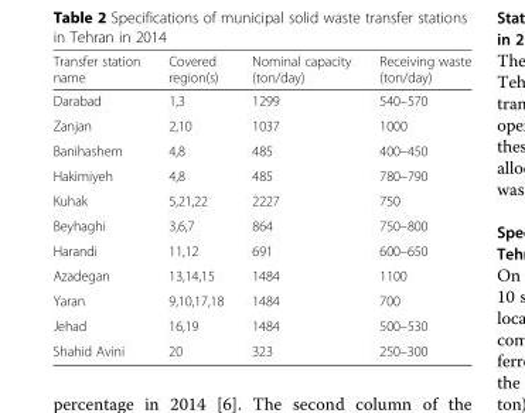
<table><thead><tr><td>Transfer station name</td><td>Covered region(s)</td><td>Nominal capacity (ton/day)</td><td>Receiving waste (ton/day)</td></tr></thead><tbody><tr><td>Darabad</td><td>1,3</td><td>1299</td><td>540–570</td></tr><tr><td>Zanjan</td><td>2,10</td><td>1037</td><td>1000</td></tr><tr><td>Banihashem</td><td>4,8</td><td>485</td><td>400–450</td></tr><tr><td>Hakimiyeh</td><td>4,8</td><td>485</td><td>780–790</td></tr><tr><td>Kuhak</td><td>5,21,22</td><td>2227</td><td>750</td></tr><tr><td>Beyhaghi</td><td>3,6,7</td><td>864</td><td>750–800</td></tr><tr><td>Harandi</td><td>11,12</td><td>691</td><td>600–650</td></tr><tr><td>Azadegan</td><td>13,14,15</td><td>1484</td><td>1100</td></tr><tr><td>Yaran</td><td>9,10,17,18</td><td>1484</td><td>700</td></tr><tr><td>Jehad</td><td>16,19</td><td>1484</td><td>500–530</td></tr><tr><td>Shahid Avini</td><td>20</td><td>323</td><td>250–300</td></tr></tbody></table>